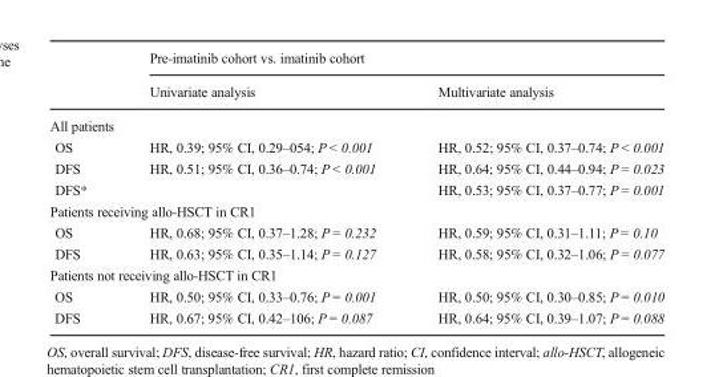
<table><thead><tr><td rowspan="2"></td><td colspan="2">Pre-imatinib cohort vs. imatinib cohort</td></tr><tr><td>Univariate analysis</td><td>Multivariate analysis</td></tr></thead><tbody><tr><td colspan="3">All patients</td></tr><tr><td>OS</td><td>HR, 0.39; 95% CI, 0.29–054; P &lt; 0.001</td><td>HR, 0.52; 95% CI, 0.37–0.74; P &lt; 0.001</td></tr><tr><td>DFS</td><td>HR, 0.51; 95% CI, 0.36–0.74; P &lt; 0.001</td><td>HR, 0.64; 95% CI, 0.44–0.94; P = 0.023</td></tr><tr><td>DFS*</td><td></td><td>HR, 0.53; 95% CI, 0.37–0.77; P = 0.001</td></tr><tr><td colspan="3">Patients receiving allo-HSCT in CR1</td></tr><tr><td>OS</td><td>HR, 0.68; 95% CI, 0.37–1.28; P = 0.232</td><td>HR, 0.59; 95% CI, 0.31–1.11; P = 0.10</td></tr><tr><td>DFS</td><td>HR, 0.63; 95% CI, 0.35–1.14; P = 0.127</td><td>HR, 0.58; 95% CI, 0.32–1.06; P = 0.077</td></tr><tr><td colspan="3">Patients not receiving allo-HSCT in CR1</td></tr><tr><td>OS</td><td>HR, 0.50; 95% CI, 0.33–0.76; P = 0.001</td><td>HR, 0.50; 95% CI, 0.30–0.85; P = 0.010</td></tr><tr><td>DFS</td><td>HR, 0.67; 95% CI, 0.42–106; P = 0.087</td><td>HR, 0.64; 95% CI, 0.39–1.07; P = 0.088</td></tr></tbody></table>